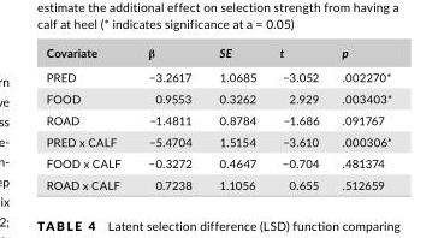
<table><thead><tr><td>Covariate</td><td>β</td><td>SE</td><td>t</td><td>p</td></tr></thead><tbody><tr><td>PRED</td><td>−3.2617</td><td>1.0685</td><td>−3.052</td><td>.002270*</td></tr><tr><td>FOOD</td><td>0.9553</td><td>0.3262</td><td>2.929</td><td>.003403*</td></tr><tr><td>ROAD</td><td>−1.4811</td><td>0.8784</td><td>−1.686</td><td>.091767</td></tr><tr><td>PRED x CALF</td><td>−5.4704</td><td>1.5154</td><td>−3.610</td><td>.000306*</td></tr><tr><td>FOOD x CALF</td><td>−0.3272</td><td>0.4647</td><td>−0.704</td><td>.481374</td></tr><tr><td>ROAD x CALF</td><td>0.7238</td><td>1.1056</td><td>0.655</td><td>.512659</td></tr></tbody></table>